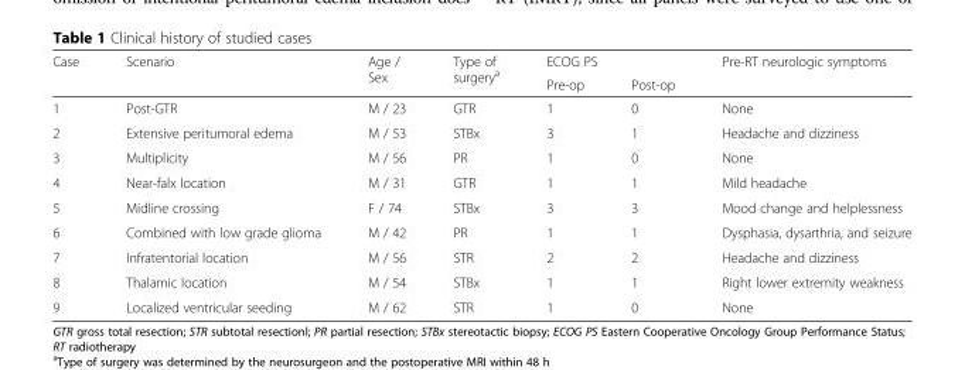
<table><thead><tr><td rowspan="2">Case</td><td rowspan="2">Scenario</td><td rowspan="2">Age / Sex</td><td rowspan="2">Type of surgery<sup>a</sup></td><td colspan="2">ECOG PS</td><td rowspan="2">Pre-RT neurologic symptoms</td></tr><tr><td>Pre-op</td><td>Post-op</td></tr></thead><tbody><tr><td>1</td><td>Post-GTR</td><td>M / 23</td><td>GTR</td><td>1</td><td>0</td><td>None</td></tr><tr><td>2</td><td>Extensive peritumoral edema</td><td>M / 53</td><td>STBx</td><td>3</td><td>1</td><td>Headache and dizziness</td></tr><tr><td>3</td><td>Multiplicity</td><td>M / 56</td><td>PR</td><td>1</td><td>0</td><td>None</td></tr><tr><td>4</td><td>Near-falx location</td><td>M / 31</td><td>GTR</td><td>1</td><td>1</td><td>Mild headache</td></tr><tr><td>5</td><td>Midline crossing</td><td>F / 74</td><td>STBx</td><td>3</td><td>3</td><td>Mood change and helplessness</td></tr><tr><td>6</td><td>Combined with low grade glioma</td><td>M / 42</td><td>PR</td><td>1</td><td>1</td><td>Dysphasia, dysarthria, and seizure</td></tr><tr><td>7</td><td>Infratentorial location</td><td>M / 56</td><td>STR</td><td>2</td><td>2</td><td>Headache and dizziness</td></tr><tr><td>8</td><td>Thalamic location</td><td>M / 54</td><td>STBx</td><td>1</td><td>1</td><td>Right lower extremity weakness</td></tr><tr><td>9</td><td>Localized ventricular seeding</td><td>M / 62</td><td>STR</td><td>1</td><td>0</td><td>None</td></tr></tbody></table>